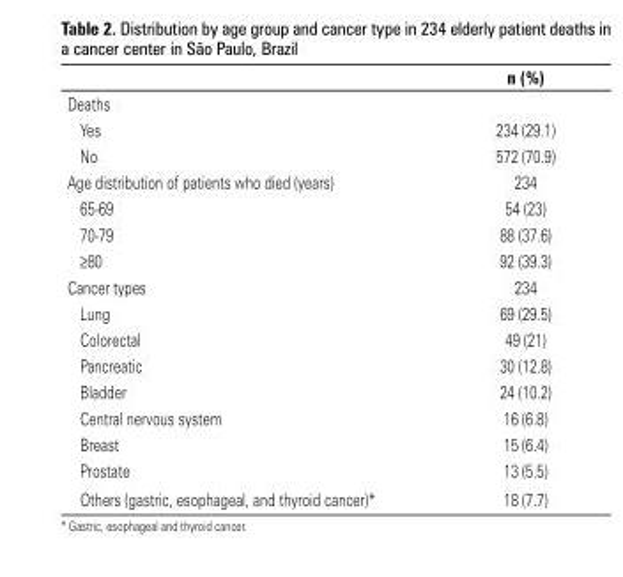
<table><thead><tr><td></td><td>n (%)</td></tr></thead><tbody><tr><td colspan="2">Deaths</td></tr><tr><td>Yes</td><td>234 (29.1)</td></tr><tr><td>No</td><td>572 (70.9)</td></tr><tr><td>Age distribution of patients who died (years)</td><td>234</td></tr><tr><td>65-69</td><td>54 (23)</td></tr><tr><td>70-79</td><td>88 (37.6)</td></tr><tr><td>≥80</td><td>92 (39.3)</td></tr><tr><td>Cancer types</td><td>234</td></tr><tr><td>Lung</td><td>69 (29.5)</td></tr><tr><td>Colorectal</td><td>49 (21)</td></tr><tr><td>Pancreatic</td><td>30 (12.8)</td></tr><tr><td>Bladder</td><td>24 (10.2)</td></tr><tr><td>Central nervous system</td><td>16 (6.8)</td></tr><tr><td>Breast</td><td>15 (6.4)</td></tr><tr><td>Prostate</td><td>13 (5.5)</td></tr><tr><td>Others (gastric, esophageal, and thyroid cancer)*</td><td>18 (7.7)</td></tr></tbody></table>